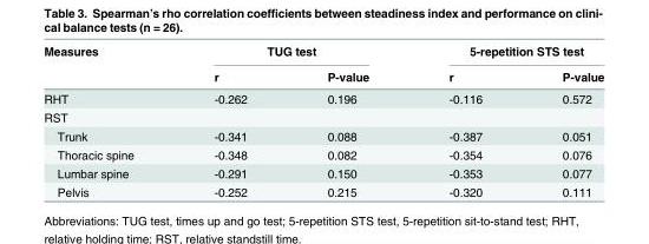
<table><thead><tr><td rowspan="2">Measures</td><td colspan="2">TUG test</td><td colspan="2">5-repetition STS test</td></tr><tr><td>r</td><td>P-value</td><td>r</td><td>P-value</td></tr></thead><tbody><tr><td>RHT</td><td>-0.262</td><td>0.196</td><td>-0.116</td><td>0.572</td></tr><tr><td colspan="5">RST</td></tr><tr><td>Trunk</td><td>-0.341</td><td>0.088</td><td>-0.387</td><td>0.051</td></tr><tr><td>Thoracic spine</td><td>-0.348</td><td>0.082</td><td>-0.354</td><td>0.076</td></tr><tr><td>Lumbar spine</td><td>-0.291</td><td>0.150</td><td>-0.353</td><td>0.077</td></tr><tr><td>Pelvis</td><td>-0.252</td><td>0.215</td><td>-0.320</td><td>0.111</td></tr></tbody></table>